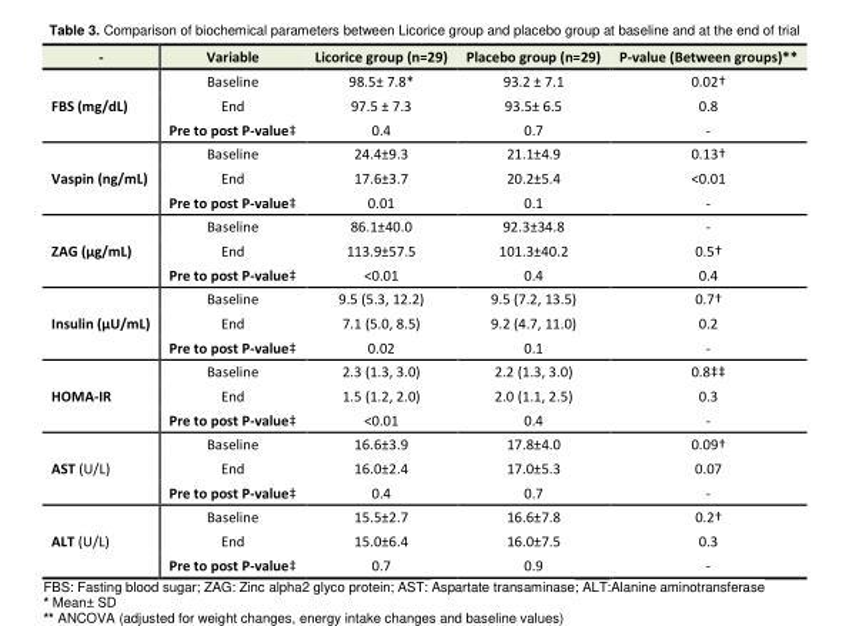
<table><tbody><tr><td>-</td><td>Variable</td><td>Licorice group (n=29)</td><td>Placebo group (n=29)</td><td>P-value (Between groups)**</td></tr><tr><td rowspan="3">FBS (mg/dL)</td><td>Baseline</td><td>98.5± 7.8*</td><td>93.2 ± 7.1</td><td>0.02†</td></tr><tr><td>End</td><td>97.5 ± 7.3</td><td>93.5± 6.5</td><td>0.8</td></tr><tr><td>Pre to post P-value‡</td><td>0.4</td><td>0.7</td><td>-</td></tr><tr><td rowspan="3">Vaspin (ng/mL)</td><td>Baseline</td><td>24.4±9.3</td><td>21.1±4.9</td><td>0.13†</td></tr><tr><td>End</td><td>17.6±3.7</td><td>20.2±5.4</td><td>&lt;0.01</td></tr><tr><td>Pre to post P-value‡</td><td>0.01</td><td>0.1</td><td>-</td></tr><tr><td rowspan="3">ZAG (µg/mL)</td><td>Baseline</td><td>86.1±40.0</td><td>92.3±34.8</td><td>-</td></tr><tr><td>End</td><td>113.9±57.5</td><td>101.3±40.2</td><td>0.5†</td></tr><tr><td>Pre to post P-value‡</td><td>&lt;0.01</td><td>0.4</td><td>0.4</td></tr><tr><td rowspan="3">Insulin (µU/mL)</td><td>Baseline</td><td>9.5 (5.3, 12.2)</td><td>9.5 (7.2, 13.5)</td><td>0.7†</td></tr><tr><td>End</td><td>7.1 (5.0, 8.5)</td><td>9.2 (4.7, 11.0)</td><td>0.2</td></tr><tr><td>Pre to post P-value‡</td><td>0.02</td><td>0.1</td><td>-</td></tr><tr><td rowspan="3">HOMA-IR</td><td>Baseline</td><td>2.3 (1.3, 3.0)</td><td>2.2 (1.3, 3.0)</td><td>0.8‡‡</td></tr><tr><td>End</td><td>1.5 (1.2, 2.0)</td><td>2.0 (1.1, 2.5)</td><td>0.3</td></tr><tr><td>Pre to post P-value‡</td><td>&lt;0.01</td><td>0.4</td><td>-</td></tr><tr><td rowspan="3">AST (U/L)</td><td>Baseline</td><td>16.6±3.9</td><td>17.8±4.0</td><td>0.09†</td></tr><tr><td>End</td><td>16.0±2.4</td><td>17.0±5.3</td><td>0.07</td></tr><tr><td>Pre to post P-value‡</td><td>0.4</td><td>0.7</td><td>-</td></tr><tr><td rowspan="3">ALT (U/L)</td><td>Baseline</td><td>15.5±2.7</td><td>16.6±7.8</td><td>0.2†</td></tr><tr><td>End</td><td>15.0±6.4</td><td>16.0±7.5</td><td>0.3</td></tr><tr><td>Pre to post P-value‡</td><td>0.7</td><td>0.9</td><td>-</td></tr></tbody></table>